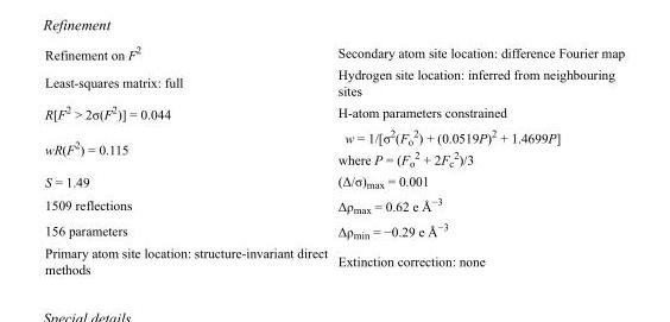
<table><tbody><tr><td>Refinement on F<sup>2</sup></td><td>Secondary atom site location: difference Fourier map</td></tr><tr><td>Least-squares matrix: full</td><td>Hydrogen site location: inferred from neighbouring sites</td></tr><tr><td>R[F<sup>2</sup> &gt; 2σ(F<sup>2</sup>)] = 0.044</td><td>H-atom parameters constrained</td></tr><tr><td>wR(F<sup>2</sup>) = 0.115</td><td>w = 1/[σ<sup>2</sup>(F<sub>o</sub> <sup>2</sup>) + (0.0519P)<sup>2</sup> + 1.4699P] where P = (F<sub>o</sub> <sup>2</sup> + 2F<sub>c</sub> <sup>2</sup>)/3</td></tr><tr><td>S = 1.49</td><td>(Δ/σ)<sub>max</sub> = 0.001</td></tr><tr><td>1509 reflections</td><td>Δρ<sub>max</sub> = 0.62 e Å<sup>−3</sup></td></tr><tr><td>156 parameters</td><td>Δρ<sub>min</sub> = −0.29 e Å<sup>−3</sup></td></tr><tr><td>Primary atom site location: structure-invariant direct methods</td><td>Extinction correction: none</td></tr></tbody></table>